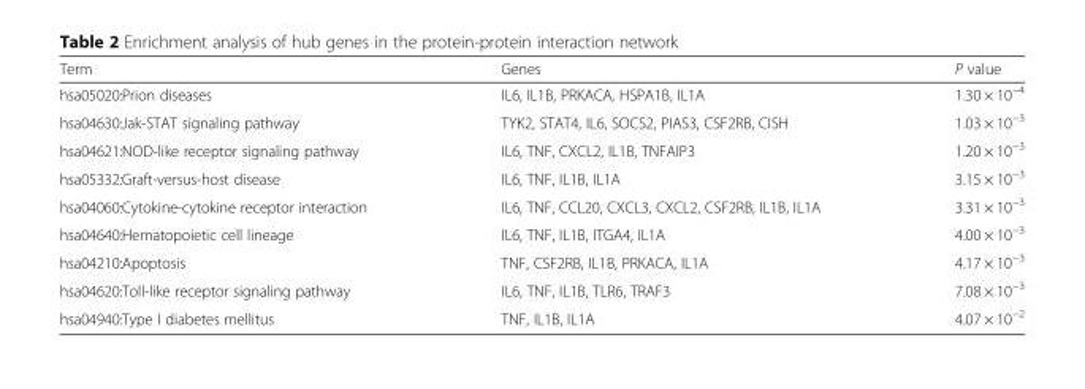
<table><thead><tr><td>Term</td><td>Genes</td><td>P value</td></tr></thead><tbody><tr><td>hsa05020:Prion diseases</td><td>IL6, IL1B, PRKACA, HSPA1B, IL1A</td><td>1.30 × 10<sup>−4</sup></td></tr><tr><td>hsa04630:Jak-STAT signaling pathway</td><td>TYK2, STAT4, IL6, SOCS2, PIAS3, CSF2RB, CISH</td><td>1.03 × 10<sup>−3</sup></td></tr><tr><td>hsa04621:NOD-like receptor signaling pathway</td><td>IL6, TNF, CXCL2, IL1B, TNFAIP3</td><td>1.20 × 10<sup>−3</sup></td></tr><tr><td>hsa05332:Graft-versus-host disease</td><td>IL6, TNF, IL1B, IL1A</td><td>3.15 × 10<sup>−3</sup></td></tr><tr><td>hsa04060:Cytokine-cytokine receptor interaction</td><td>IL6, TNF, CCL20, CXCL3, CXCL2, CSF2RB, IL1B, IL1A</td><td>3.31 × 10<sup>−3</sup></td></tr><tr><td>hsa04640:Hematopoietic cell lineage</td><td>IL6, TNF, IL1B, ITGA4, IL1A</td><td>4.00 × 10<sup>−3</sup></td></tr><tr><td>hsa04210:Apoptosis</td><td>TNF, CSF2RB, IL1B, PRKACA, IL1A</td><td>4.17 × 10<sup>−3</sup></td></tr><tr><td>hsa04620:Toll-like receptor signaling pathway</td><td>IL6, TNF, IL1B, TLR6, TRAF3</td><td>7.08 × 10<sup>−3</sup></td></tr><tr><td>hsa04940:Type I diabetes mellitus</td><td>TNF, IL1B, IL1A</td><td>4.07 × 10<sup>−2</sup></td></tr></tbody></table>